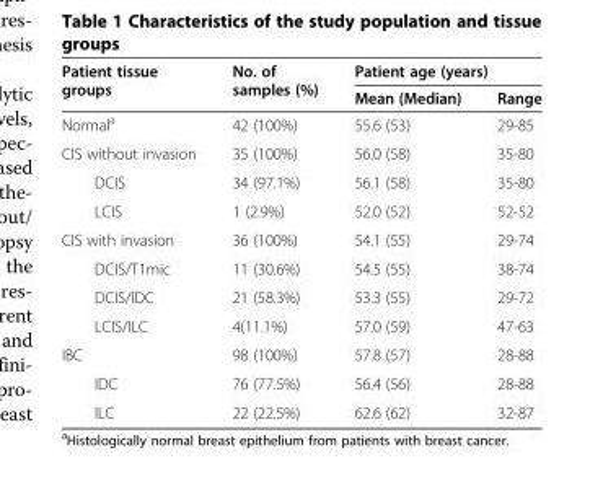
<table><thead><tr><td rowspan="2">Patient tissue groups</td><td rowspan="2">No. of samples (%)</td><td colspan="2">Patient age (years)</td></tr><tr><td>Mean (Median)</td><td>Range</td></tr></thead><tbody><tr><td>Normal<sup>a</sup></td><td>42 (100%)</td><td>55.6 (53)</td><td>29-85</td></tr><tr><td>CIS without invasion</td><td>35 (100%)</td><td>56.0 (58)</td><td>35-80</td></tr><tr><td>DCIS</td><td>34 (97.1%)</td><td>56.1 (58)</td><td>35-80</td></tr><tr><td>LCIS</td><td>1 (2.9%)</td><td>52.0 (52)</td><td>52-52</td></tr><tr><td>CIS with invasion</td><td>36 (100%)</td><td>54.1 (55)</td><td>29-74</td></tr><tr><td>DCIS/T1mic</td><td>11 (30.6%)</td><td>54.5 (55)</td><td>38-74</td></tr><tr><td>DCIS/IDC</td><td>21 (58.3%)</td><td>53.3 (55)</td><td>29-72</td></tr><tr><td>LCIS/ILC</td><td>4(11.1%)</td><td>57.0 (59)</td><td>47-63</td></tr><tr><td>IBC</td><td>98 (100%)</td><td>57.8 (57)</td><td>28-88</td></tr><tr><td>IDC</td><td>76 (77.5%)</td><td>56.4 (56)</td><td>28-88</td></tr><tr><td>ILC</td><td>22 (22.5%)</td><td>62.6 (62)</td><td>32-87</td></tr></tbody></table>